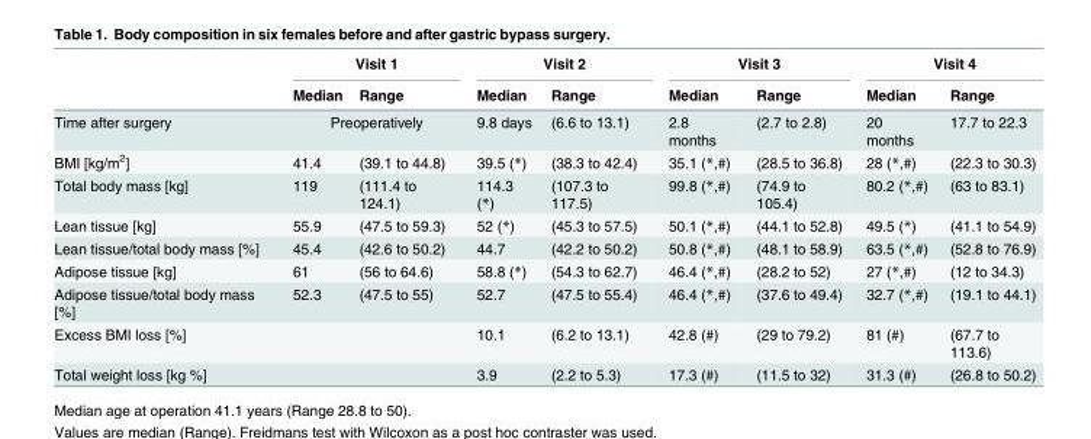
<table><thead><tr><td rowspan="2"></td><td colspan="2">Visit 1</td><td colspan="2">Visit 2</td><td colspan="2">Visit 3</td><td colspan="2">Visit 4</td></tr><tr><td>Median</td><td>Range</td><td>Median</td><td>Range</td><td>Median</td><td>Range</td><td>Median</td><td>Range</td></tr></thead><tbody><tr><td>Time after surgery</td><td colspan="2">Preoperatively</td><td>9.8 days</td><td>(6.6 to 13.1)</td><td>2.8 months</td><td>(2.7 to 2.8)</td><td>20 months</td><td>17.7 to 22.3</td></tr><tr><td>BMI [kg/m<sup>2</sup>]</td><td>41.4</td><td>(39.1 to 44.8)</td><td>39.5 (*)</td><td>(38.3 to 42.4)</td><td>35.1 (*,#)</td><td>(28.5 to 36.8)</td><td>28 (*,#)</td><td>(22.3 to 30.3)</td></tr><tr><td>Total body mass [kg]</td><td>119</td><td>(111.4 to 124.1)</td><td>114.3 (*)</td><td>(107.3 to 117.5)</td><td>99.8 (*,#)</td><td>(74.9 to 105.4)</td><td>80.2 (*,#)</td><td>(63 to 83.1)</td></tr><tr><td>Lean tissue [kg]</td><td>55.9</td><td>(47.5 to 59.3)</td><td>52 (*)</td><td>(45.3 to 57.5)</td><td>50.1 (*,#)</td><td>(44.1 to 52.8)</td><td>49.5 (*)</td><td>(41.1 to 54.9)</td></tr><tr><td>Lean tissue/total body mass [%]</td><td>45.4</td><td>(42.6 to 50.2)</td><td>44.7</td><td>(42.2 to 50.2)</td><td>50.8 (*,#)</td><td>(48.1 to 58.9)</td><td>63.5 (*,#)</td><td>(52.8 to 76.9)</td></tr><tr><td>Adipose tissue [kg]</td><td>61</td><td>(56 to 64.6)</td><td>58.8 (*)</td><td>(54.3 to 62.7)</td><td>46.4 (*,#)</td><td>(28.2 to 52)</td><td>27 (*,#)</td><td>(12 to 34.3)</td></tr><tr><td>Adipose tissue/total body mass [%]</td><td>52.3</td><td>(47.5 to 55)</td><td>52.7</td><td>(47.5 to 55.4)</td><td>46.4 (*,#)</td><td>(37.6 to 49.4)</td><td>32.7 (*,#)</td><td>(19.1 to 44.1)</td></tr><tr><td>Excess BMI loss [%]</td><td colspan="2"></td><td>10.1</td><td>(6.2 to 13.1)</td><td>42.8 (#)</td><td>(29 to 79.2)</td><td>81 (#)</td><td>(67.7 to 113.6)</td></tr><tr><td>Total weight loss [kg %]</td><td colspan="2"></td><td>3.9</td><td>(2.2 to 5.3)</td><td>17.3 (#)</td><td>(11.5 to 32)</td><td>31.3 (#)</td><td>(26.8 to 50.2)</td></tr></tbody></table>